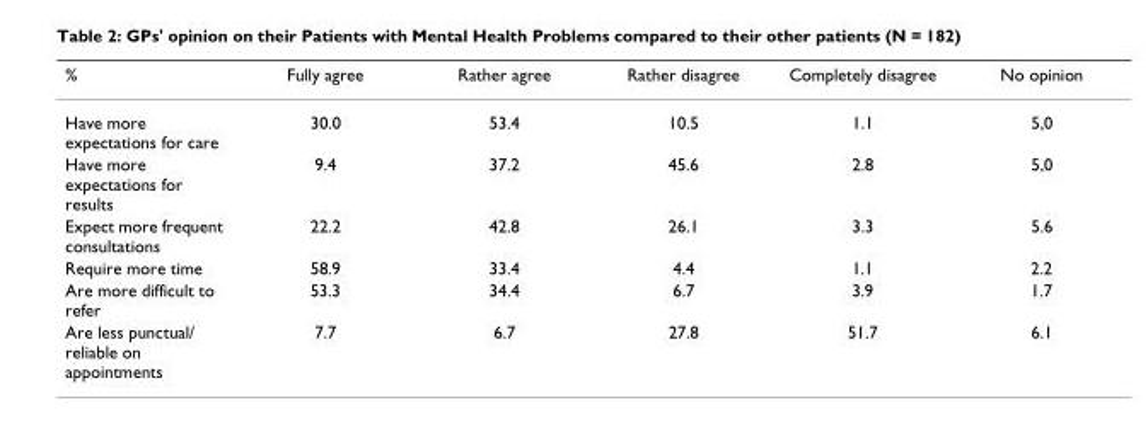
<table><thead><tr><td>%</td><td>Fully agree</td><td>Rather agree</td><td>Rather disagree</td><td>Completely disagree</td><td>No opinion</td></tr></thead><tbody><tr><td>Have more expectations for care</td><td>30.0</td><td>53.4</td><td>10.5</td><td>1.1</td><td>5,0</td></tr><tr><td>Have more expectations for results</td><td>9.4</td><td>37.2</td><td>45.6</td><td>2.8</td><td>5,0</td></tr><tr><td>Expect more frequent consultations</td><td>22.2</td><td>42.8</td><td>26.1</td><td>3.3</td><td>5.6</td></tr><tr><td>Require more time</td><td>58.9</td><td>33.4</td><td>4.4</td><td>1.1</td><td>2.2</td></tr><tr><td>Are more difficult to refer</td><td>53.3</td><td>34.4</td><td>6.7</td><td>3.9</td><td>1.7</td></tr><tr><td>Are less punctual/ reliable on appointments</td><td>7.7</td><td>6.7</td><td>27.8</td><td>51.7</td><td>6.1</td></tr></tbody></table>